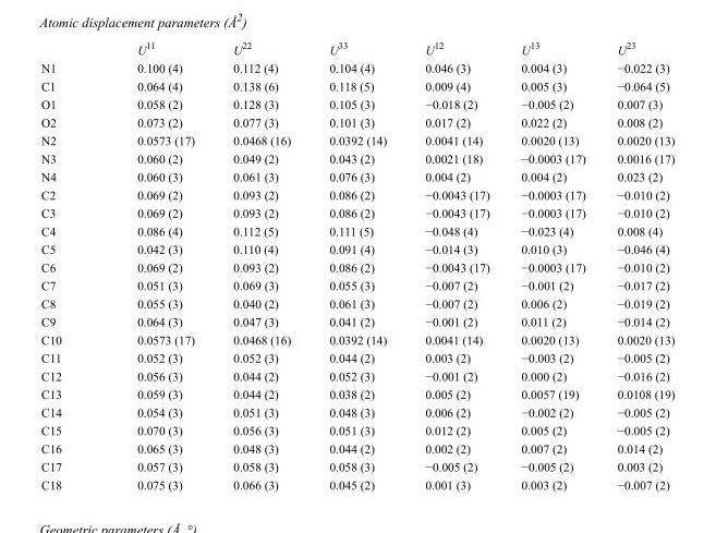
<table><thead><tr><td></td><td>U<sup>11</sup></td><td>U<sup>22</sup></td><td>U<sup>33</sup></td><td>U<sup>12</sup></td><td>U<sup>13</sup></td><td>U<sup>23</sup></td></tr></thead><tbody><tr><td>N1</td><td>0.100 (4)</td><td>0.112 (4)</td><td>0.104 (4)</td><td>0.046 (3)</td><td>0.004 (3)</td><td>−0.022 (3)</td></tr><tr><td>C1</td><td>0.064 (4)</td><td>0.138 (6)</td><td>0.118 (5)</td><td>0.009 (4)</td><td>0.005 (3)</td><td>−0.064 (5)</td></tr><tr><td>O1</td><td>0.058 (2)</td><td>0.128 (3)</td><td>0.105 (3)</td><td>−0.018 (2)</td><td>−0.005 (2)</td><td>0.007 (3)</td></tr><tr><td>O2</td><td>0.073 (2)</td><td>0.077 (3)</td><td>0.101 (3)</td><td>0.017 (2)</td><td>0.022 (2)</td><td>0.008 (2)</td></tr><tr><td>N2</td><td>0.0573 (17)</td><td>0.0468 (16)</td><td>0.0392 (14)</td><td>0.0041 (14)</td><td>0.0020 (13)</td><td>0.0020 (13)</td></tr><tr><td>N3</td><td>0.060 (2)</td><td>0.049 (2)</td><td>0.043 (2)</td><td>0.0021 (18)</td><td>−0.0003 (17)</td><td>0.0016 (17)</td></tr><tr><td>N4</td><td>0.060 (3)</td><td>0.061 (3)</td><td>0.076 (3)</td><td>0.004 (2)</td><td>0.004 (2)</td><td>0.023 (2)</td></tr><tr><td>C2</td><td>0.069 (2)</td><td>0.093 (2)</td><td>0.086 (2)</td><td>−0.0043 (17)</td><td>−0.0003 (17)</td><td>−0.010 (2)</td></tr><tr><td>C3</td><td>0.069 (2)</td><td>0.093 (2)</td><td>0.086 (2)</td><td>−0.0043 (17)</td><td>−0.0003 (17)</td><td>−0.010 (2)</td></tr><tr><td>C4</td><td>0.086 (4)</td><td>0.112 (5)</td><td>0.111 (5)</td><td>−0.048 (4)</td><td>−0.023 (4)</td><td>0.008 (4)</td></tr><tr><td>C5</td><td>0.042 (3)</td><td>0.110 (4)</td><td>0.091 (4)</td><td>−0.014 (3)</td><td>0.010 (3)</td><td>−0.046 (4)</td></tr><tr><td>C6</td><td>0.069 (2)</td><td>0.093 (2)</td><td>0.086 (2)</td><td>−0.0043 (17)</td><td>−0.0003 (17)</td><td>−0.010 (2)</td></tr><tr><td>C7</td><td>0.051 (3)</td><td>0.069 (3)</td><td>0.055 (3)</td><td>−0.007 (2)</td><td>−0.001 (2)</td><td>−0.017 (2)</td></tr><tr><td>C8</td><td>0.055 (3)</td><td>0.040 (2)</td><td>0.061 (3)</td><td>−0.007 (2)</td><td>0.006 (2)</td><td>−0.019 (2)</td></tr><tr><td>C9</td><td>0.064 (3)</td><td>0.047 (3)</td><td>0.041 (2)</td><td>−0.001 (2)</td><td>0.011 (2)</td><td>−0.014 (2)</td></tr><tr><td>C10</td><td>0.0573 (17)</td><td>0.0468 (16)</td><td>0.0392 (14)</td><td>0.0041 (14)</td><td>0.0020 (13)</td><td>0.0020 (13)</td></tr><tr><td>C11</td><td>0.052 (3)</td><td>0.052 (3)</td><td>0.044 (2)</td><td>0.003 (2)</td><td>−0.003 (2)</td><td>−0.005 (2)</td></tr><tr><td>C12</td><td>0.056 (3)</td><td>0.044 (2)</td><td>0.052 (3)</td><td>−0.001 (2)</td><td>0.000 (2)</td><td>−0.016 (2)</td></tr><tr><td>C13</td><td>0.059 (3)</td><td>0.044 (2)</td><td>0.038 (2)</td><td>0.005 (2)</td><td>0.0057 (19)</td><td>0.0108 (19)</td></tr><tr><td>C14</td><td>0.054 (3)</td><td>0.051 (3)</td><td>0.048 (3)</td><td>0.006 (2)</td><td>−0.002 (2)</td><td>−0.005 (2)</td></tr><tr><td>C15</td><td>0.070 (3)</td><td>0.056 (3)</td><td>0.051 (3)</td><td>0.012 (2)</td><td>0.005 (2)</td><td>−0.005 (2)</td></tr><tr><td>C16</td><td>0.065 (3)</td><td>0.048 (3)</td><td>0.044 (2)</td><td>0.002 (2)</td><td>0.007 (2)</td><td>0.014 (2)</td></tr><tr><td>C17</td><td>0.057 (3)</td><td>0.058 (3)</td><td>0.058 (3)</td><td>−0.005 (2)</td><td>−0.005 (2)</td><td>0.003 (2)</td></tr><tr><td>C18</td><td>0.075 (3)</td><td>0.066 (3)</td><td>0.045 (2)</td><td>0.001 (3)</td><td>0.003 (2)</td><td>−0.007 (2)</td></tr></tbody></table>